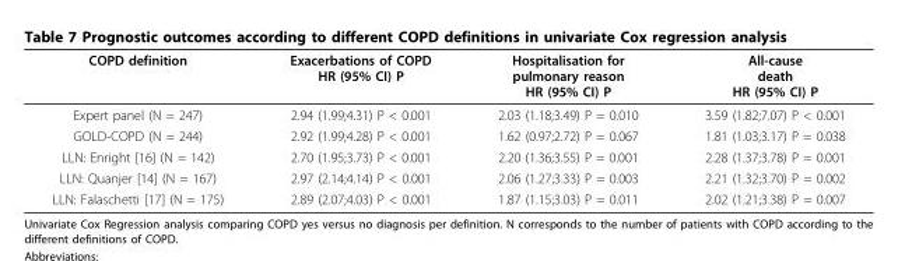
<table><thead><tr><td>COPD definition</td><td>Exacerbations of COPD HR (95% CI) P</td><td>Hospitalisation for pulmonary reason HR (95% CI) P</td><td>All-cause death HR (95% CI) P</td></tr></thead><tbody><tr><td>Expert panel (N = 247)</td><td>2.94 (1.99;4.31) P &lt; 0.001</td><td>2.03 (1.18;3.49) P = 0.010</td><td>3.59 (1.82;7.07) P &lt; 0.001</td></tr><tr><td>GOLD-COPD (N = 244)</td><td>2.92 (1.99;4.28) P &lt; 0.001</td><td>1.62 (0.97;2.72) P = 0.067</td><td>1.81 (1.03;3.17) P = 0.038</td></tr><tr><td>LLN: Enright [16] (N = 142)</td><td>2.70 (1.95;3.73) P &lt; 0.001</td><td>2.20 (1.36;3.55) P = 0.001</td><td>2.28 (1.37;3.78) P = 0.001</td></tr><tr><td>LLN: Quanjer [14] (N = 167)</td><td>2.97 (2.14;4.14) P &lt; 0.001</td><td>2.06 (1.27;3.33) P = 0.003</td><td>2.21 (1.32;3.70) P = 0.002</td></tr><tr><td>LLN: Falaschetti [17] (N = 175)</td><td>2.89 (2.07;4.03) P &lt; 0.001</td><td>1.87 (1.15;3.03) P = 0.011</td><td>2.02 (1.21;3.38) P = 0.007</td></tr></tbody></table>